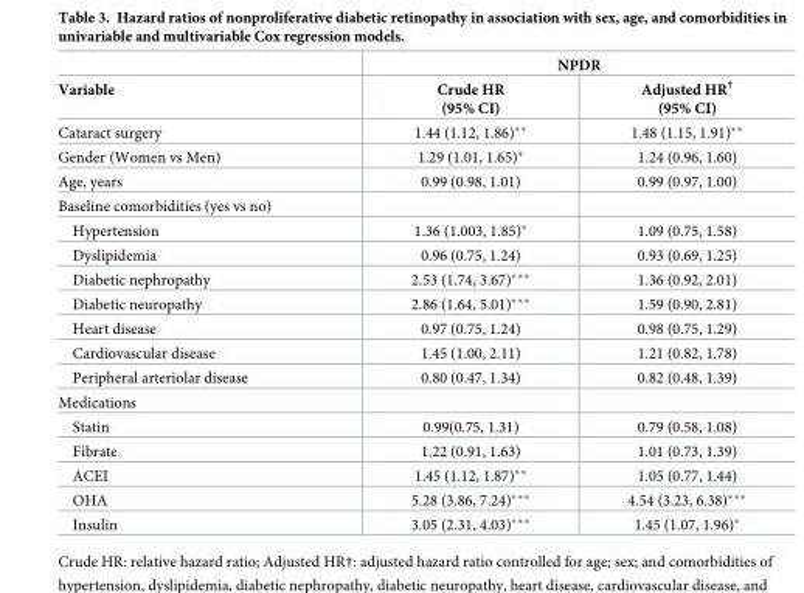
<table><thead><tr><td rowspan="2">Variable</td><td colspan="2">NPDR</td></tr><tr><td>Crude HR (95% CI)</td><td>Adjusted HR<sup>†</sup> (95% CI)</td></tr></thead><tbody><tr><td>Cataract surgery</td><td>1.44 (1.12, 1.86)**</td><td>1.48 (1.15, 1.91)**</td></tr><tr><td>Gender (Women vs Men)</td><td>1.29 (1.01, 1.65)*</td><td>1.24 (0.96, 1.60)</td></tr><tr><td>Age, years</td><td>0.99 (0.98, 1.01)</td><td>0.99 (0.97, 1.00)</td></tr><tr><td colspan="3">Baseline comorbidities (yes vs no)</td></tr><tr><td>Hypertension</td><td>1.36 (1.003, 1.85)*</td><td>1.09 (0.75, 1.58)</td></tr><tr><td>Dyslipidemia</td><td>0.96 (0.75, 1.24)</td><td>0.93 (0.69, 1.25)</td></tr><tr><td>Diabetic nephropathy</td><td>2.53 (1.74, 3.67)***</td><td>1.36 (0.92, 2.01)</td></tr><tr><td>Diabetic neuropathy</td><td>2.86 (1.64, 5.01)***</td><td>1.59 (0.90, 2.81)</td></tr><tr><td>Heart disease</td><td>0.97 (0.75, 1.24)</td><td>0.98 (0.75, 1.29)</td></tr><tr><td>Cardiovascular disease</td><td>1.45 (1.00, 2.11)</td><td>1.21 (0.82, 1.78)</td></tr><tr><td>Peripheral arteriolar disease</td><td>0.80 (0.47, 1.34)</td><td>0.82 (0.48, 1.39)</td></tr><tr><td colspan="3">Medications</td></tr><tr><td>Statin</td><td>0.99(0.75, 1.31)</td><td>0.79 (0.58, 1.08)</td></tr><tr><td>Fibrate</td><td>1.22 (0.91, 1.63)</td><td>1.01 (0.73, 1.39)</td></tr><tr><td>ACEI</td><td>1.45 (1.12, 1.87)**</td><td>1.05 (0.77, 1.44)</td></tr><tr><td>OHA</td><td>5.28 (3.86, 7.24)***</td><td>4.54 (3.23, 6.38)***</td></tr><tr><td>Insulin</td><td>3.05 (2.31, 4.03)***</td><td>1.45 (1.07, 1.96)*</td></tr></tbody></table>